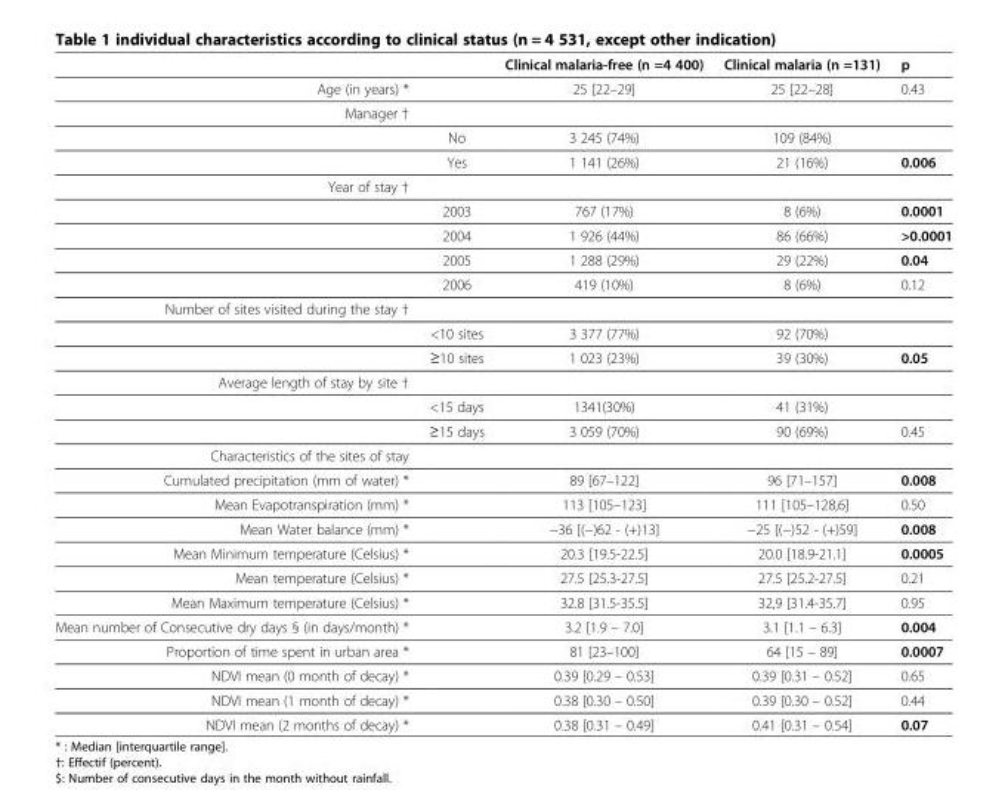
<table><thead><tr><td></td><td></td><td>Clinical malaria-free (n =4 400)</td><td>Clinical malaria (n =131)</td><td>p</td></tr></thead><tbody><tr><td>Age (in years) *</td><td></td><td>25 [22–29]</td><td>25 [22–28]</td><td>0.43</td></tr><tr><td colspan="5">Manager †</td></tr><tr><td></td><td>No</td><td>3 245 (74%)</td><td>109 (84%)</td><td></td></tr><tr><td></td><td>Yes</td><td>1 141 (26%)</td><td>21 (16%)</td><td>0.006</td></tr><tr><td colspan="5">Year of stay †</td></tr><tr><td></td><td>2003</td><td>767 (17%)</td><td>8 (6%)</td><td>0.0001</td></tr><tr><td></td><td>2004</td><td>1 926 (44%)</td><td>86 (66%)</td><td>&gt;0.0001</td></tr><tr><td></td><td>2005</td><td>1 288 (29%)</td><td>29 (22%)</td><td>0.04</td></tr><tr><td></td><td>2006</td><td>419 (10%)</td><td>8 (6%)</td><td>0.12</td></tr><tr><td colspan="5">Number of sites visited during the stay †</td></tr><tr><td></td><td>&lt;10 sites</td><td>3 377 (77%)</td><td>92 (70%)</td><td></td></tr><tr><td></td><td>≥10 sites</td><td>1 023 (23%)</td><td>39 (30%)</td><td>0.05</td></tr><tr><td colspan="5">Average length of stay by site †</td></tr><tr><td></td><td>&lt;15 days</td><td>1341(30%)</td><td>41 (31%)</td><td></td></tr><tr><td></td><td>≥15 days</td><td>3 059 (70%)</td><td>90 (69%)</td><td>0.45</td></tr><tr><td colspan="5">Characteristics of the sites of stay</td></tr><tr><td>Cumulated precipitation (mm of water) *</td><td></td><td>89 [67–122]</td><td>96 [71–157]</td><td>0.008</td></tr><tr><td>Mean Evapotranspiration (mm) *</td><td></td><td>113 [105–123]</td><td>111 [105–128,6]</td><td>0.50</td></tr><tr><td>Mean Water balance (mm) *</td><td></td><td>−36 [(−)62 - (+)13]</td><td>−25 [(−)52 - (+)59]</td><td>0.008</td></tr><tr><td>Mean Minimum temperature (Celsius) *</td><td></td><td>20.3 [19.5-22.5]</td><td>20.0 [18.9-21.1]</td><td>0.0005</td></tr><tr><td>Mean temperature (Celsius) *</td><td></td><td>27.5 [25.3-27.5]</td><td>27.5 [25.2-27.5]</td><td>0.21</td></tr><tr><td>Mean Maximum temperature (Celsius) *</td><td></td><td>32.8 [31.5-35.5]</td><td>32,9 [31.4-35.7]</td><td>0.95</td></tr><tr><td>Mean number of Consecutive dry days § (in days/month) *</td><td></td><td>3.2 [1.9 – 7.0]</td><td>3.1 [1.1 – 6.3]</td><td>0.004</td></tr><tr><td>Proportion of time spent in urban area *</td><td></td><td>81 [23–100]</td><td>64 [15 – 89]</td><td>0.0007</td></tr><tr><td>NDVI mean (0 month of decay) *</td><td></td><td>0.39 [0.29 – 0.53]</td><td>0.39 [0.31 – 0.52]</td><td>0.65</td></tr><tr><td>NDVI mean (1 month of decay) *</td><td></td><td>0.38 [0.30 – 0.50]</td><td>0.39 [0.30 – 0.52]</td><td>0.44</td></tr><tr><td>NDVI mean (2 months of decay) *</td><td></td><td>0.38 [0.31 – 0.49]</td><td>0.41 [0.31 – 0.54]</td><td>0.07</td></tr></tbody></table>